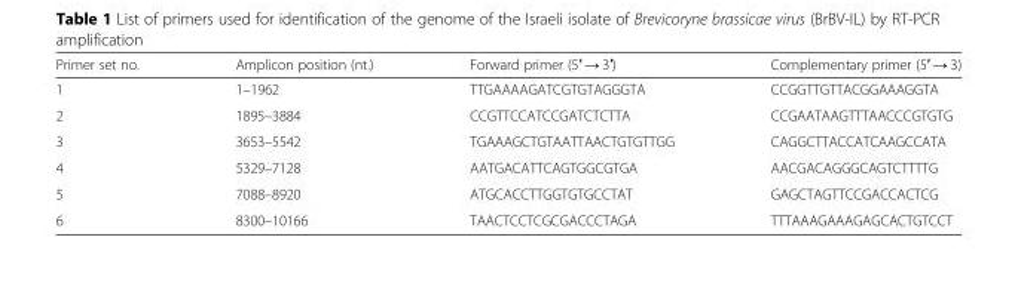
<table><thead><tr><td>Primer set no.</td><td>Amplicon position (nt.)</td><td>Forward primer (5′ → 3′)</td><td>Complementary primer (5′ → 3)</td></tr></thead><tbody><tr><td>1</td><td>1–1962</td><td>TTGAAAAGATCGTGTAGGGTA</td><td>CCGGTTGTTACGGAAAGGTA</td></tr><tr><td>2</td><td>1895–3884</td><td>CCGTTCCATCCGATCTCTTA</td><td>CCGAATAAGTTTAACCCGTGTG</td></tr><tr><td>3</td><td>3653–5542</td><td>TGAAAGCTGTAATTAACTGTGTTGG</td><td>CAGGCTTACCATCAAGCCATA</td></tr><tr><td>4</td><td>5329–7128</td><td>AATGACATTCAGTGGCGTGA</td><td>AACGACAGGGCAGTCTTTTG</td></tr><tr><td>5</td><td>7088–8920</td><td>ATGCACCTTGGTGTGCCTAT</td><td>GAGCTAGTTCCGACCACTCG</td></tr><tr><td>6</td><td>8300–10166</td><td>TAACTCCTCGCGACCCTAGA</td><td>TTTAAAGAAAGAGCACTGTCCT</td></tr></tbody></table>